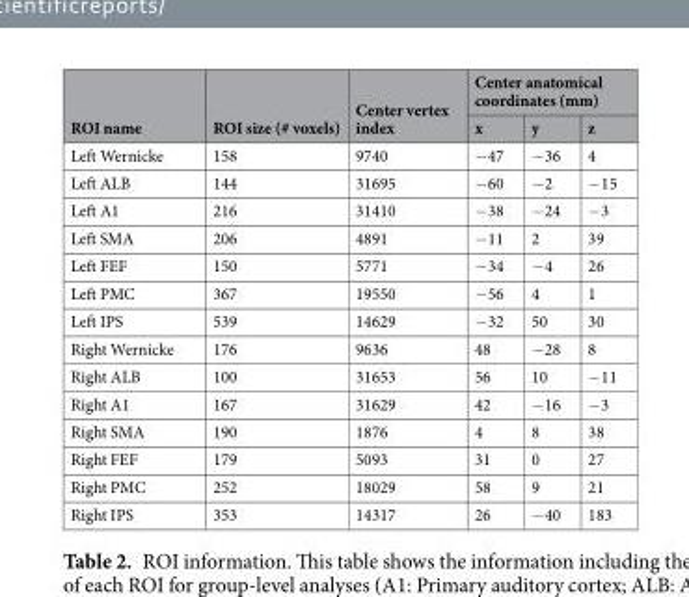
<table><thead><tr><td rowspan="2">ROI name</td><td rowspan="2">ROI size (# voxels)</td><td rowspan="2">Center vertex index</td><td colspan="3">Center anatomical coordinates (mm)</td></tr><tr><td>x</td><td>y</td><td>z</td></tr></thead><tbody><tr><td>Left Wernicke</td><td>158</td><td>9740</td><td>−47</td><td>−36</td><td>4</td></tr><tr><td>Left ALB</td><td>144</td><td>31695</td><td>−60</td><td>−2</td><td>−15</td></tr><tr><td>Left A1</td><td>216</td><td>31410</td><td>−38</td><td>−24</td><td>−3</td></tr><tr><td>Left SMA</td><td>206</td><td>4891</td><td>−11</td><td>2</td><td>39</td></tr><tr><td>Left FEF</td><td>150</td><td>5771</td><td>−34</td><td>−4</td><td>26</td></tr><tr><td>Left PMC</td><td>367</td><td>19550</td><td>−56</td><td>4</td><td>1</td></tr><tr><td>Left IPS</td><td>539</td><td>14629</td><td>−32</td><td>50</td><td>30</td></tr><tr><td>Right Wernicke</td><td>176</td><td>9636</td><td>48</td><td>−28</td><td>8</td></tr><tr><td>Right ALB</td><td>100</td><td>31653</td><td>56</td><td>10</td><td>−11</td></tr><tr><td>Right A1</td><td>167</td><td>31629</td><td>42</td><td>−16</td><td>−3</td></tr><tr><td>Right SMA</td><td>190</td><td>1876</td><td>4</td><td>8</td><td>38</td></tr><tr><td>Right FEF</td><td>179</td><td>5093</td><td>31</td><td>0</td><td>27</td></tr><tr><td>Right PMC</td><td>252</td><td>18029</td><td>58</td><td>9</td><td>21</td></tr><tr><td>Right IPS</td><td>353</td><td>14317</td><td>26</td><td>−40</td><td>183</td></tr></tbody></table>